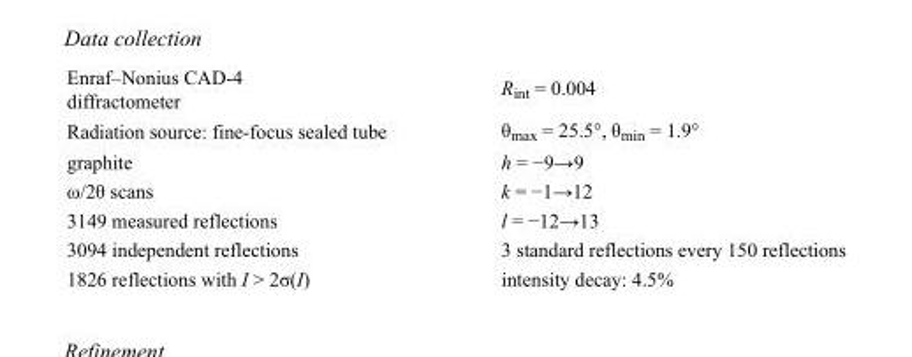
<table><tbody><tr><td>Enraf–Nonius CAD-4 diffractometer</td><td>R<sub>int</sub> = 0.004</td></tr><tr><td>Radiation source: fine-focus sealed tube</td><td>θ<sub>max</sub> = 25.5°, θ<sub>min</sub> = 1.9°</td></tr><tr><td>graphite</td><td>h = −9→9</td></tr><tr><td>ω/2θ scans</td><td>k = −1→12</td></tr><tr><td>3149 measured reflections</td><td>l = −12→13</td></tr><tr><td>3094 independent reflections</td><td>3 standard reflections every 150 reflections</td></tr><tr><td>1826 reflections with I &gt; 2σ(I)</td><td>intensity decay: 4.5%</td></tr></tbody></table>